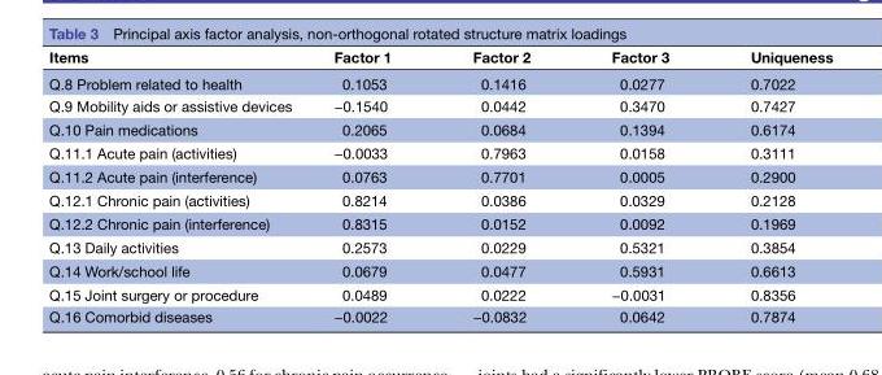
<table><thead><tr><td>Items</td><td>Factor 1</td><td>Factor 2</td><td>Factor 3</td><td>Uniqueness</td></tr></thead><tbody><tr><td>Q.8 Problem related to health</td><td>0.1053</td><td>0.1416</td><td>0.0277</td><td>0.7022</td></tr><tr><td>Q.9 Mobility aids or assistive devices</td><td>−0.1540</td><td>0.0442</td><td>0.3470</td><td>0.7427</td></tr><tr><td>Q.10 Pain medications</td><td>0.2065</td><td>0.0684</td><td>0.1394</td><td>0.6174</td></tr><tr><td>Q.11.1 Acute pain (activities)</td><td>−0.0033</td><td>0.7963</td><td>0.0158</td><td>0.3111</td></tr><tr><td>Q.11.2 Acute pain (interference)</td><td>0.0763</td><td>0.7701</td><td>0.0005</td><td>0.2900</td></tr><tr><td>Q.12.1 Chronic pain (activities)</td><td>0.8214</td><td>0.0386</td><td>0.0329</td><td>0.2128</td></tr><tr><td>Q.12.2 Chronic pain (interference)</td><td>0.8315</td><td>0.0152</td><td>0.0092</td><td>0.1969</td></tr><tr><td>Q.13 Daily activities</td><td>0.2573</td><td>0.0229</td><td>0.5321</td><td>0.3854</td></tr><tr><td>Q.14 Work/school life</td><td>0.0679</td><td>0.0477</td><td>0.5931</td><td>0.6613</td></tr><tr><td>Q.15 Joint surgery or procedure</td><td>0.0489</td><td>0.0222</td><td>−0.0031</td><td>0.8356</td></tr><tr><td>Q.16 Comorbid diseases</td><td>−0.0022</td><td>−0.0832</td><td>0.0642</td><td>0.7874</td></tr></tbody></table>